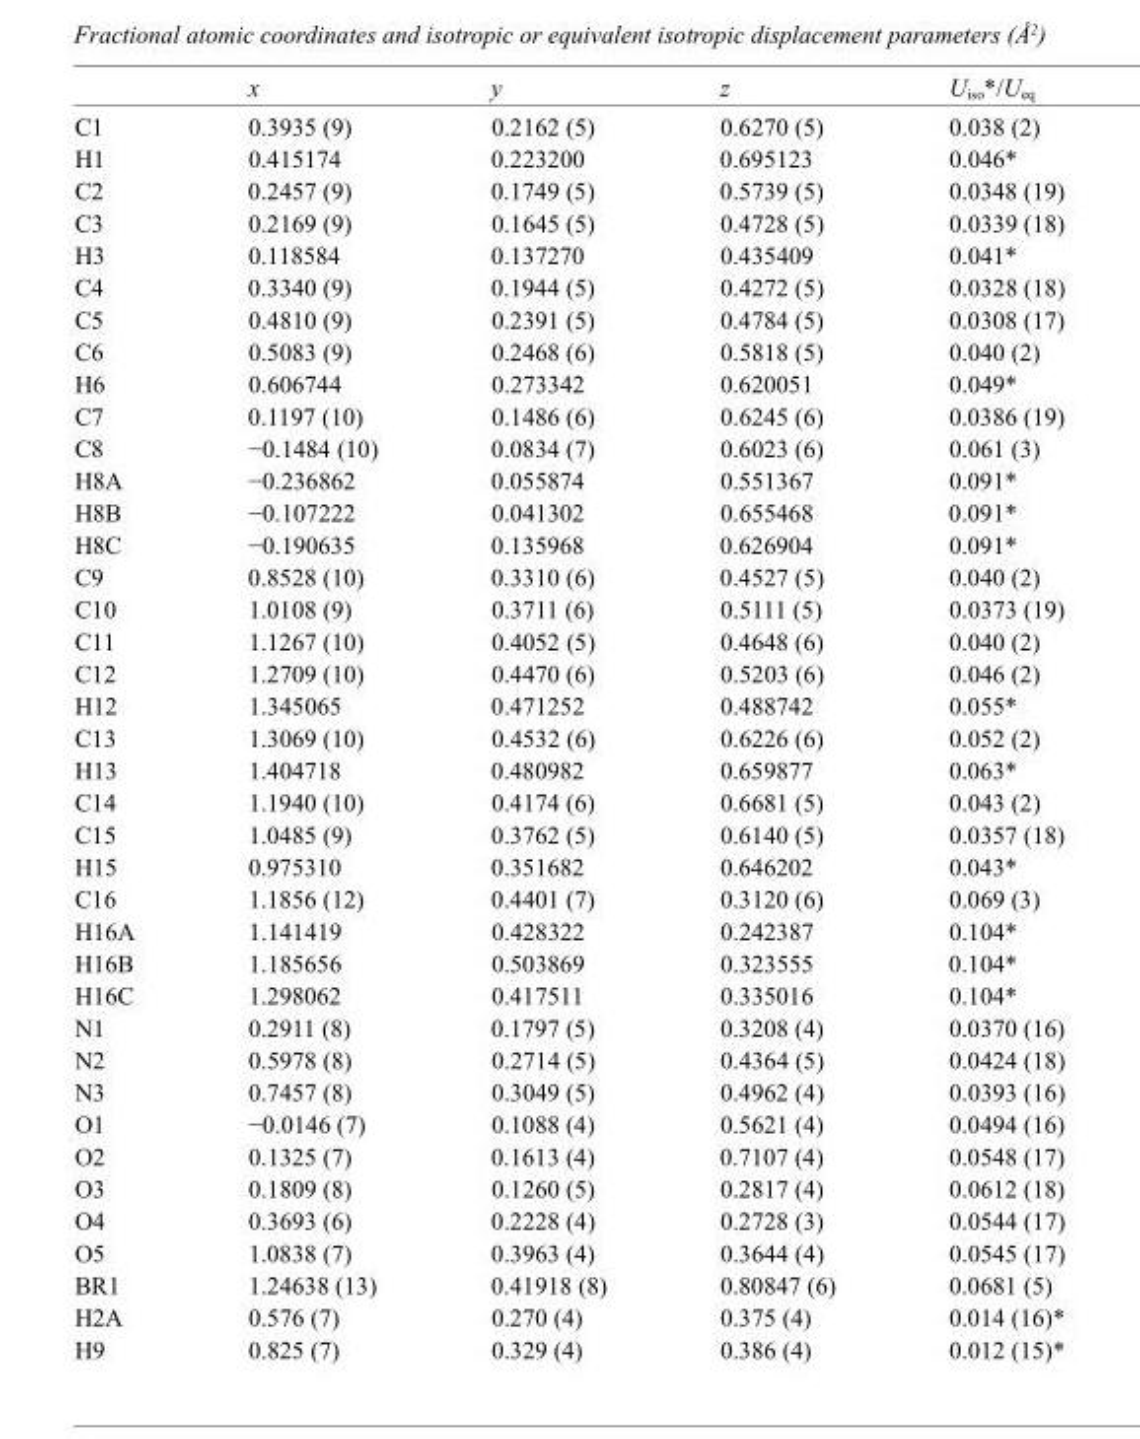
<table><thead><tr><td></td><td>x</td><td>y</td><td>z</td><td>U<sub>iso</sub>*/U<sub>eq</sub></td></tr></thead><tbody><tr><td>C1</td><td>0.3935 (9)</td><td>0.2162 (5)</td><td>0.6270 (5)</td><td>0.038 (2)</td></tr><tr><td>H1</td><td>0.415174</td><td>0.223200</td><td>0.695123</td><td>0.046*</td></tr><tr><td>C2</td><td>0.2457 (9)</td><td>0.1749 (5)</td><td>0.5739 (5)</td><td>0.0348 (19)</td></tr><tr><td>C3</td><td>0.2169 (9)</td><td>0.1645 (5)</td><td>0.4728 (5)</td><td>0.0339 (18)</td></tr><tr><td>H3</td><td>0.118584</td><td>0.137270</td><td>0.435409</td><td>0.041*</td></tr><tr><td>C4</td><td>0.3340 (9)</td><td>0.1944 (5)</td><td>0.4272 (5)</td><td>0.0328 (18)</td></tr><tr><td>C5</td><td>0.4810 (9)</td><td>0.2391 (5)</td><td>0.4784 (5)</td><td>0.0308 (17)</td></tr><tr><td>C6</td><td>0.5083 (9)</td><td>0.2468 (6)</td><td>0.5818 (5)</td><td>0.040 (2)</td></tr><tr><td>H6</td><td>0.606744</td><td>0.273342</td><td>0.620051</td><td>0.049*</td></tr><tr><td>C7</td><td>0.1197 (10)</td><td>0.1486 (6)</td><td>0.6245 (6)</td><td>0.0386 (19)</td></tr><tr><td>C8</td><td>−0.1484 (10)</td><td>0.0834 (7)</td><td>0.6023 (6)</td><td>0.061 (3)</td></tr><tr><td>H8A</td><td>−0.236862</td><td>0.055874</td><td>0.551367</td><td>0.091*</td></tr><tr><td>H8B</td><td>−0.107222</td><td>0.041302</td><td>0.655468</td><td>0.091*</td></tr><tr><td>H8C</td><td>−0.190635</td><td>0.135968</td><td>0.626904</td><td>0.091*</td></tr><tr><td>C9</td><td>0.8528 (10)</td><td>0.3310 (6)</td><td>0.4527 (5)</td><td>0.040 (2)</td></tr><tr><td>C10</td><td>1.0108 (9)</td><td>0.3711 (6)</td><td>0.5111 (5)</td><td>0.0373 (19)</td></tr><tr><td>C11</td><td>1.1267 (10)</td><td>0.4052 (5)</td><td>0.4648 (6)</td><td>0.040 (2)</td></tr><tr><td>C12</td><td>1.2709 (10)</td><td>0.4470 (6)</td><td>0.5203 (6)</td><td>0.046 (2)</td></tr><tr><td>H12</td><td>1.345065</td><td>0.471252</td><td>0.488742</td><td>0.055*</td></tr><tr><td>C13</td><td>1.3069 (10)</td><td>0.4532 (6)</td><td>0.6226 (6)</td><td>0.052 (2)</td></tr><tr><td>H13</td><td>1.404718</td><td>0.480982</td><td>0.659877</td><td>0.063*</td></tr><tr><td>C14</td><td>1.1940 (10)</td><td>0.4174 (6)</td><td>0.6681 (5)</td><td>0.043 (2)</td></tr><tr><td>C15</td><td>1.0485 (9)</td><td>0.3762 (5)</td><td>0.6140 (5)</td><td>0.0357 (18)</td></tr><tr><td>H15</td><td>0.975310</td><td>0.351682</td><td>0.646202</td><td>0.043*</td></tr><tr><td>C16</td><td>1.1856 (12)</td><td>0.4401 (7)</td><td>0.3120 (6)</td><td>0.069 (3)</td></tr><tr><td>H16A</td><td>1.141419</td><td>0.428322</td><td>0.242387</td><td>0.104*</td></tr><tr><td>H16B</td><td>1.185656</td><td>0.503869</td><td>0.323555</td><td>0.104*</td></tr><tr><td>H16C</td><td>1.298062</td><td>0.417511</td><td>0.335016</td><td>0.104*</td></tr><tr><td>N1</td><td>0.2911 (8)</td><td>0.1797 (5)</td><td>0.3208 (4)</td><td>0.0370 (16)</td></tr><tr><td>N2</td><td>0.5978 (8)</td><td>0.2714 (5)</td><td>0.4364 (5)</td><td>0.0424 (18)</td></tr><tr><td>N3</td><td>0.7457 (8)</td><td>0.3049 (5)</td><td>0.4962 (4)</td><td>0.0393 (16)</td></tr><tr><td>O1</td><td>−0.0146 (7)</td><td>0.1088 (4)</td><td>0.5621 (4)</td><td>0.0494 (16)</td></tr><tr><td>O2</td><td>0.1325 (7)</td><td>0.1613 (4)</td><td>0.7107 (4)</td><td>0.0548 (17)</td></tr><tr><td>O3</td><td>0.1809 (8)</td><td>0.1260 (5)</td><td>0.2817 (4)</td><td>0.0612 (18)</td></tr><tr><td>O4</td><td>0.3693 (6)</td><td>0.2228 (4)</td><td>0.2728 (3)</td><td>0.0544 (17)</td></tr><tr><td>O5</td><td>1.0838 (7)</td><td>0.3963 (4)</td><td>0.3644 (4)</td><td>0.0545 (17)</td></tr><tr><td>BR1</td><td>1.24638 (13)</td><td>0.41918 (8)</td><td>0.80847 (6)</td><td>0.0681 (5)</td></tr><tr><td>H2A</td><td>0.576 (7)</td><td>0.270 (4)</td><td>0.375 (4)</td><td>0.014 (16)*</td></tr><tr><td>H9</td><td>0.825 (7)</td><td>0.329 (4)</td><td>0.386 (4)</td><td>0.012 (15)*</td></tr></tbody></table>